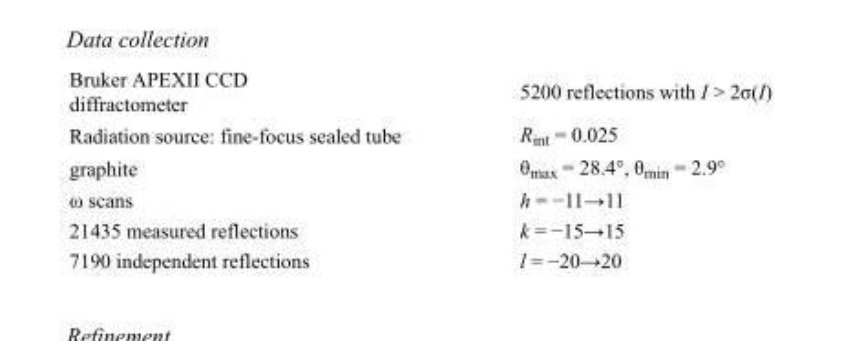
<table><tbody><tr><td>Bruker APEXII CCD diffractometer</td><td>5200 reflections with I &gt; 2σ(I)</td></tr><tr><td>Radiation source: fine-focus sealed tube</td><td>R<sub>int</sub> = 0.025</td></tr><tr><td>graphite</td><td>θ<sub>max</sub> = 28.4°, θ<sub>min</sub> = 2.9°</td></tr><tr><td>ω scans</td><td>h = −11→11</td></tr><tr><td>21435 measured reflections</td><td>k = −15→15</td></tr><tr><td>7190 independent reflections</td><td>l = −20→20</td></tr></tbody></table>